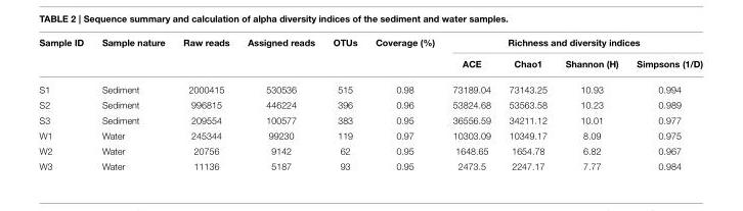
<table><thead><tr><td rowspan="2">Sample ID</td><td rowspan="2">Sample nature</td><td rowspan="2">Raw reads</td><td rowspan="2">Assigned reads</td><td rowspan="2">OTUs</td><td rowspan="2">Coverage (%)</td><td colspan="4">Richness and diversity indices</td></tr><tr><td>ACE</td><td>Chao1</td><td>Shannon (H)</td><td>Simpsons (1/D)</td></tr></thead><tbody><tr><td>S1</td><td>Sediment</td><td>2000415</td><td>530536</td><td>515</td><td>0.98</td><td>73189.04</td><td>73143.25</td><td>10.93</td><td>0.994</td></tr><tr><td>S2</td><td>Sediment</td><td>996815</td><td>446224</td><td>396</td><td>0.96</td><td>53824.68</td><td>53563.58</td><td>10.23</td><td>0.989</td></tr><tr><td>S3</td><td>Sediment</td><td>209554</td><td>100577</td><td>383</td><td>0.95</td><td>36556.59</td><td>34211.12</td><td>10.01</td><td>0.977</td></tr><tr><td>W1</td><td>Water</td><td>245344</td><td>99230</td><td>119</td><td>0.97</td><td>10303.09</td><td>10349.17</td><td>8.09</td><td>0.975</td></tr><tr><td>W2</td><td>Water</td><td>20756</td><td>9142</td><td>62</td><td>0.95</td><td>1648.65</td><td>1654.78</td><td>6.82</td><td>0.967</td></tr><tr><td>W3</td><td>Water</td><td>11136</td><td>5187</td><td>93</td><td>0.95</td><td>2473.5</td><td>2247.17</td><td>7.77</td><td>0.984</td></tr></tbody></table>